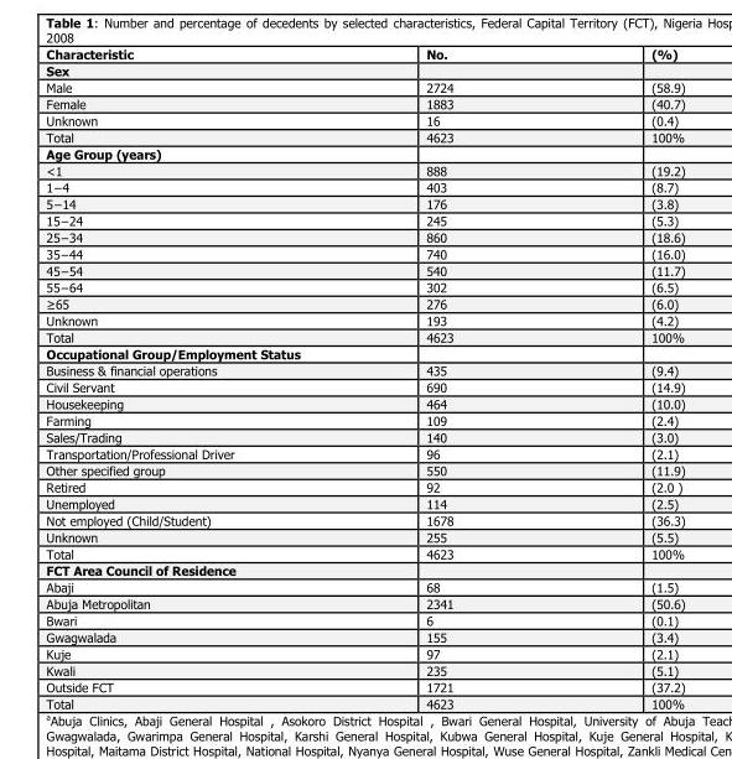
<table><thead><tr><td>Characteristic</td><td>No.</td><td>(%)</td></tr></thead><tbody><tr><td colspan="3">Sex</td></tr><tr><td>Male</td><td>2724</td><td>(58.9)</td></tr><tr><td>Female</td><td>1883</td><td>(40.7)</td></tr><tr><td>Unknown</td><td>16</td><td>(0.4)</td></tr><tr><td>Total</td><td>4623</td><td>100%</td></tr><tr><td colspan="3">Age Group (years)</td></tr><tr><td>&lt;1</td><td>888</td><td>(19.2)</td></tr><tr><td>1−4</td><td>403</td><td>(8.7)</td></tr><tr><td>5−14</td><td>176</td><td>(3.8)</td></tr><tr><td>15−24</td><td>245</td><td>(5.3)</td></tr><tr><td>25−34</td><td>860</td><td>(18.6)</td></tr><tr><td>35−44</td><td>740</td><td>(16.0)</td></tr><tr><td>45−54</td><td>540</td><td>(11.7)</td></tr><tr><td>55−64</td><td>302</td><td>(6.5)</td></tr><tr><td>≥65</td><td>276</td><td>(6.0)</td></tr><tr><td>Unknown</td><td>193</td><td>(4.2)</td></tr><tr><td>Total</td><td>4623</td><td>100%</td></tr><tr><td colspan="3">Occupational Group/Employment Status</td></tr><tr><td>Business &amp; financial operations</td><td>435</td><td>(9.4)</td></tr><tr><td>Civil Servant</td><td>690</td><td>(14.9)</td></tr><tr><td>Housekeeping</td><td>464</td><td>(10.0)</td></tr><tr><td>Farming</td><td>109</td><td>(2.4)</td></tr><tr><td>Sales/Trading</td><td>140</td><td>(3.0)</td></tr><tr><td>Transportation/Professional Driver</td><td>96</td><td>(2.1)</td></tr><tr><td>Other specified group</td><td>550</td><td>(11.9)</td></tr><tr><td>Retired</td><td>92</td><td>(2.0 )</td></tr><tr><td>Unemployed</td><td>114</td><td>(2.5)</td></tr><tr><td>Not employed (Child/Student)</td><td>1678</td><td>(36.3)</td></tr><tr><td>Unknown</td><td>255</td><td>(5.5)</td></tr><tr><td>Total</td><td>4623</td><td>100%</td></tr><tr><td colspan="3">FCT Area Council of Residence</td></tr><tr><td>Abaji</td><td>68</td><td>(1.5)</td></tr><tr><td>Abuja Metropolitan</td><td>2341</td><td>(50.6)</td></tr><tr><td>Bwari</td><td>6</td><td>(0.1)</td></tr><tr><td>Gwagwalada</td><td>155</td><td>(3.4)</td></tr><tr><td>Kuje</td><td>97</td><td>(2.1)</td></tr><tr><td>Kwali</td><td>235</td><td>(5.1)</td></tr><tr><td>Outside FCT</td><td>1721</td><td>(37.2)</td></tr><tr><td>Total</td><td>4623</td><td>100%</td></tr></tbody></table>